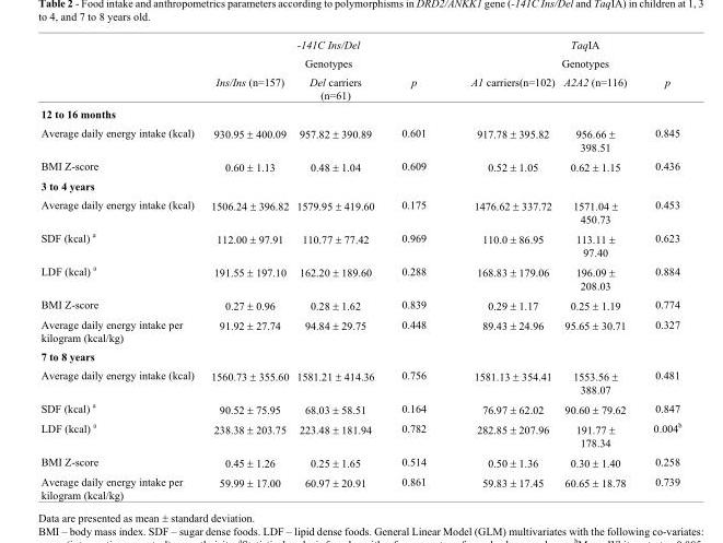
<table><thead><tr><td rowspan="3"></td><td rowspan="2" colspan="3">-141C Ins/Del Genotypes</td><td rowspan="2" colspan="3">TaqIA Genotypes</td></tr><tr></tr><tr><td>Ins/Ins (n=157)</td><td>Del carriers (n=61)</td><td>p</td><td>A1 carriers(n=102)</td><td>A2A2 (n=116)</td><td>p</td></tr></thead><tbody><tr><td colspan="7">12 to 16 months</td></tr><tr><td>Average daily energy intake (kcal)</td><td>930.95 ± 400.09</td><td>957.82 ± 390.89</td><td>0.601</td><td>917.78 ± 395.82</td><td>956.66 ± 398.51</td><td>0.845</td></tr><tr><td>BMI Z-score</td><td>0.60 ± 1.13</td><td>0.48 ± 1.04</td><td>0.609</td><td>0.52 ± 1.05</td><td>0.62 ± 1.15</td><td>0.436</td></tr><tr><td colspan="7">3 to 4 years</td></tr><tr><td>Average daily energy intake (kcal)</td><td>1506.24 ± 396.82</td><td>1579.95 ± 419.60</td><td>0.175</td><td>1476.62 ± 337.72</td><td>1571.04 ± 450.73</td><td>0.453</td></tr><tr><td>SDF (kcal) <sup>a</sup></td><td>112.00 ± 97.91</td><td>110.77 ± 77.42</td><td>0.969</td><td>110.0 ± 86.95</td><td>113.11 ± 97.40</td><td>0.623</td></tr><tr><td>LDF (kcal) <sup>a</sup></td><td>191.55 ± 197.10</td><td>162.20 ± 189.60</td><td>0.288</td><td>168.83 ± 179.06</td><td>196.09 ± 208.03</td><td>0.884</td></tr><tr><td>BMI Z-score</td><td>0.27 ± 0.96</td><td>0.28 ± 1.62</td><td>0.839</td><td>0.29 ± 1.17</td><td>0.25 ± 1.19</td><td>0.774</td></tr><tr><td>Average daily energy intake per kilogram (kcal/kg)</td><td>91.92 ± 27.74</td><td>94.84 ± 29.75</td><td>0.448</td><td>89.43 ± 24.96</td><td>95.65 ± 30.71</td><td>0.327</td></tr><tr><td colspan="7">7 to 8 years</td></tr><tr><td>Average daily energy intake (kcal)</td><td>1560.73 ± 355.60</td><td>1581.21 ± 414.36</td><td>0.756</td><td>1581.13 ± 354.41</td><td>1553.56 ± 388.07</td><td>0.481</td></tr><tr><td>SDF (kcal) <sup>a</sup></td><td>90.52 ± 75.95</td><td>68.03 ± 58.51</td><td>0.164</td><td>76.97 ± 62.02</td><td>90.60 ± 79.62</td><td>0.847</td></tr><tr><td>LDF (kcal) <sup>a</sup></td><td>238.38 ± 203.75</td><td>223.48 ± 181.94</td><td>0.782</td><td>282.85 ± 207.96</td><td>191.77 ± 178.34</td><td>0.004<sup>b</sup></td></tr><tr><td>BMI Z-score</td><td>0.45 ± 1.26</td><td>0.25 ± 1.65</td><td>0.514</td><td>0.50 ± 1.36</td><td>0.30 ± 1.40</td><td>0.258</td></tr><tr><td>Average daily energy intake per kilogram (kcal/kg)</td><td>59.99 ± 17.00</td><td>60.97 ± 20.91</td><td>0.861</td><td>59.83 ± 17.45</td><td>60.65 ± 18.78</td><td>0.739</td></tr></tbody></table>